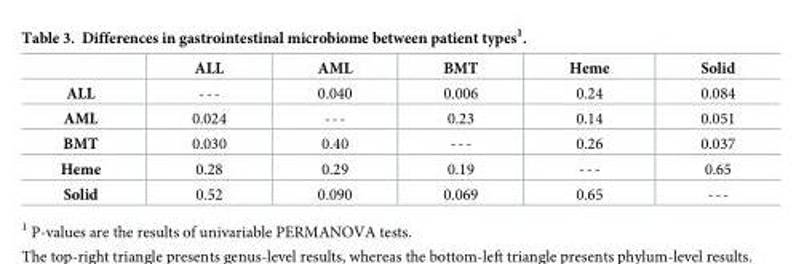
<table><thead><tr><td></td><td>ALL</td><td>AML</td><td>BMT</td><td>Heme</td><td>Solid</td></tr></thead><tbody><tr><td>ALL</td><td>---</td><td>0.040</td><td>0.006</td><td>0.24</td><td>0.084</td></tr><tr><td>AML</td><td>0.024</td><td>---</td><td>0.23</td><td>0.14</td><td>0.051</td></tr><tr><td>BMT</td><td>0.030</td><td>0.40</td><td>---</td><td>0.26</td><td>0.037</td></tr><tr><td>Heme</td><td>0.28</td><td>0.29</td><td>0.19</td><td>---</td><td>0.65</td></tr><tr><td>Solid</td><td>0.52</td><td>0.090</td><td>0.069</td><td>0.65</td><td>---</td></tr></tbody></table>